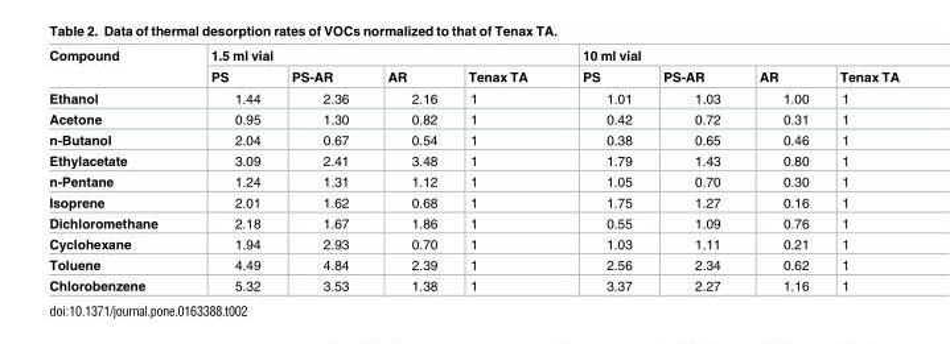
<table><thead><tr><td rowspan="2">Compound</td><td colspan="4">1.5 ml vial</td><td colspan="4">10 ml vial</td></tr><tr><td>PS</td><td>PS-AR</td><td>AR</td><td>Tenax TA</td><td>PS</td><td>PS-AR</td><td>AR</td><td>Tenax TA</td></tr></thead><tbody><tr><td>Ethanol</td><td>1.44</td><td>2.36</td><td>2.16</td><td>1</td><td>1.01</td><td>1.03</td><td>1.00</td><td>1</td></tr><tr><td>Acetone</td><td>0.95</td><td>1.30</td><td>0.82</td><td>1</td><td>0.42</td><td>0.72</td><td>0.31</td><td>1</td></tr><tr><td>n-Butanol</td><td>2.04</td><td>0.67</td><td>0.54</td><td>1</td><td>0.38</td><td>0.65</td><td>0.46</td><td>1</td></tr><tr><td>Ethylacetate</td><td>3.09</td><td>2.41</td><td>3.48</td><td>1</td><td>1.79</td><td>1.43</td><td>0.80</td><td>1</td></tr><tr><td>n-Pentane</td><td>1.24</td><td>1.31</td><td>1.12</td><td>1</td><td>1.05</td><td>0.70</td><td>0.30</td><td>1</td></tr><tr><td>Isoprene</td><td>2.01</td><td>1.62</td><td>0.68</td><td>1</td><td>1.75</td><td>1.27</td><td>0.16</td><td>1</td></tr><tr><td>Dichloromethane</td><td>2.18</td><td>1.67</td><td>1.86</td><td>1</td><td>0.55</td><td>1.09</td><td>0.76</td><td>1</td></tr><tr><td>Cyclohexane</td><td>1.94</td><td>2.93</td><td>0.70</td><td>1</td><td>1.03</td><td>1.11</td><td>0.21</td><td>1</td></tr><tr><td>Toluene</td><td>4.49</td><td>4.84</td><td>2.39</td><td>1</td><td>2.56</td><td>2.34</td><td>0.62</td><td>1</td></tr><tr><td>Chlorobenzene</td><td>5.32</td><td>3.53</td><td>1.38</td><td>1</td><td>3.37</td><td>2.27</td><td>1.16</td><td>1</td></tr></tbody></table>